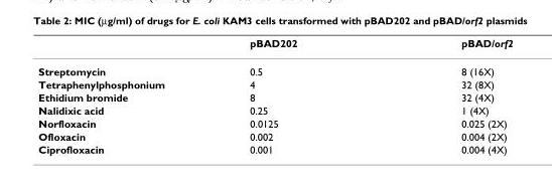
<table><thead><tr><td></td><td>pBAD202</td><td>pBAD/orf2</td></tr></thead><tbody><tr><td>Streptomycin</td><td>0.5</td><td>8 (16X)</td></tr><tr><td>Tetraphenylphosphonium</td><td>4</td><td>32 (8X)</td></tr><tr><td>Ethidium bromide</td><td>8</td><td>32 (4X)</td></tr><tr><td>Nalidixic acid</td><td>0.25</td><td>1 (4X)</td></tr><tr><td>Norfloxacin</td><td>0.0125</td><td>0.025 (2X)</td></tr><tr><td>Ofloxacin</td><td>0.002</td><td>0.004 (2X)</td></tr><tr><td>Ciprofloxacin</td><td>0.001</td><td>0.004 (4X)</td></tr></tbody></table>